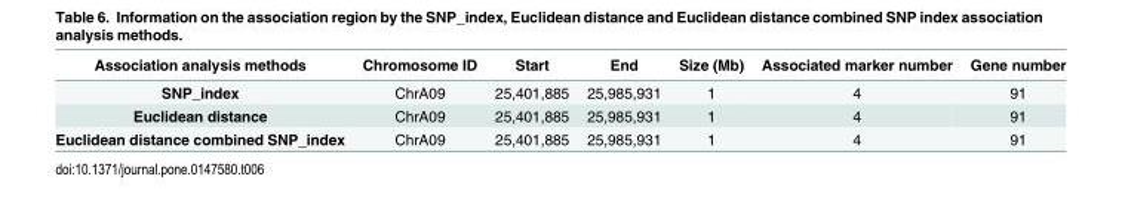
<table><thead><tr><td>Association analysis methods</td><td>Chromosome ID</td><td>Start</td><td>End</td><td>Size (Mb)</td><td>Associated marker number</td><td>Gene number</td></tr></thead><tbody><tr><td>SNP_index</td><td>ChrA09</td><td>25,401,885</td><td>25,985,931</td><td>1</td><td>4</td><td>91</td></tr><tr><td>Euclidean distance</td><td>ChrA09</td><td>25,401,885</td><td>25,985,931</td><td>1</td><td>4</td><td>91</td></tr><tr><td>Euclidean distance combined SNP_index</td><td>ChrA09</td><td>25,401,885</td><td>25,985,931</td><td>1</td><td>4</td><td>91</td></tr></tbody></table>